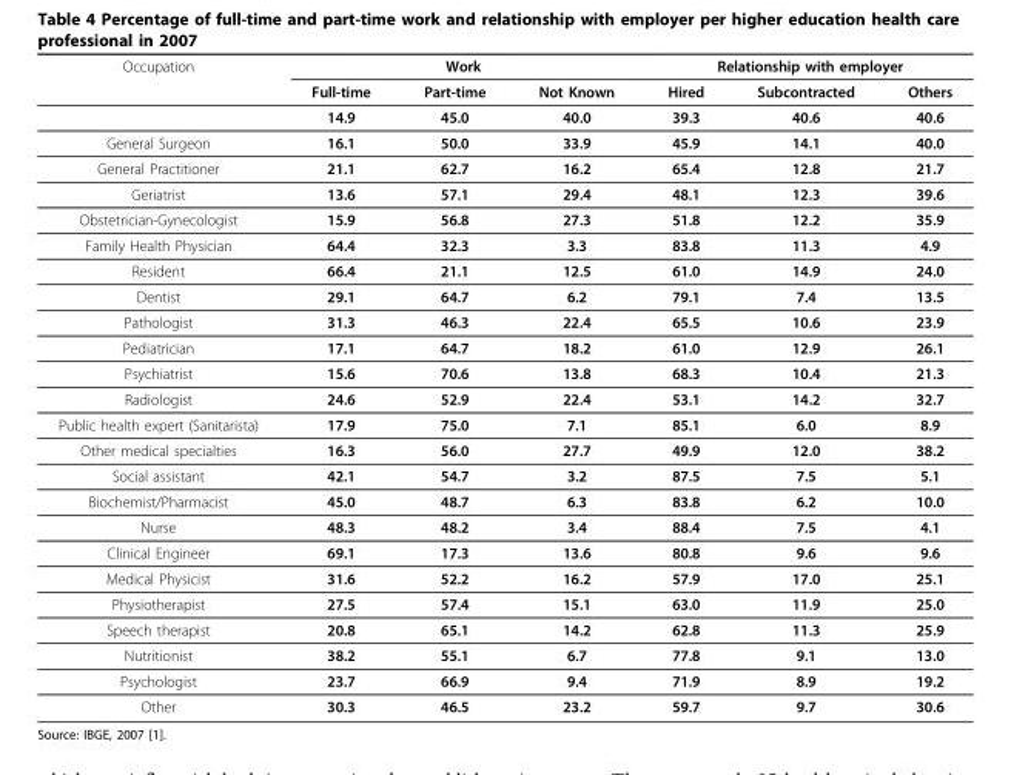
<table><thead><tr><td rowspan="2">Occupation</td><td colspan="3">Work</td><td colspan="3">Relationship with employer</td></tr><tr><td>Full-time</td><td>Part-time</td><td>Not Known</td><td>Hired</td><td>Subcontracted</td><td>Others</td></tr></thead><tbody><tr><td></td><td>14.9</td><td>45.0</td><td>40.0</td><td>39.3</td><td>40.6</td><td>40.6</td></tr><tr><td>General Surgeon</td><td>16.1</td><td>50.0</td><td>33.9</td><td>45.9</td><td>14.1</td><td>40.0</td></tr><tr><td>General Practitioner</td><td>21.1</td><td>62.7</td><td>16.2</td><td>65.4</td><td>12.8</td><td>21.7</td></tr><tr><td>Geriatrist</td><td>13.6</td><td>57.1</td><td>29.4</td><td>48.1</td><td>12.3</td><td>39.6</td></tr><tr><td>Obstetrician-Gynecologist</td><td>15.9</td><td>56.8</td><td>27.3</td><td>51.8</td><td>12.2</td><td>35.9</td></tr><tr><td>Family Health Physician</td><td>64.4</td><td>32.3</td><td>3.3</td><td>83.8</td><td>11.3</td><td>4.9</td></tr><tr><td>Resident</td><td>66.4</td><td>21.1</td><td>12.5</td><td>61.0</td><td>14.9</td><td>24.0</td></tr><tr><td>Dentist</td><td>29.1</td><td>64.7</td><td>6.2</td><td>79.1</td><td>7.4</td><td>13.5</td></tr><tr><td>Pathologist</td><td>31.3</td><td>46.3</td><td>22.4</td><td>65.5</td><td>10.6</td><td>23.9</td></tr><tr><td>Pediatrician</td><td>17.1</td><td>64.7</td><td>18.2</td><td>61.0</td><td>12.9</td><td>26.1</td></tr><tr><td>Psychiatrist</td><td>15.6</td><td>70.6</td><td>13.8</td><td>68.3</td><td>10.4</td><td>21.3</td></tr><tr><td>Radiologist</td><td>24.6</td><td>52.9</td><td>22.4</td><td>53.1</td><td>14.2</td><td>32.7</td></tr><tr><td>Public health expert (Sanitarista)</td><td>17.9</td><td>75.0</td><td>7.1</td><td>85.1</td><td>6.0</td><td>8.9</td></tr><tr><td>Other medical specialties</td><td>16.3</td><td>56.0</td><td>27.7</td><td>49.9</td><td>12.0</td><td>38.2</td></tr><tr><td>Social assistant</td><td>42.1</td><td>54.7</td><td>3.2</td><td>87.5</td><td>7.5</td><td>5.1</td></tr><tr><td>Biochemist/Pharmacist</td><td>45.0</td><td>48.7</td><td>6.3</td><td>83.8</td><td>6.2</td><td>10.0</td></tr><tr><td>Nurse</td><td>48.3</td><td>48.2</td><td>3.4</td><td>88.4</td><td>7.5</td><td>4.1</td></tr><tr><td>Clinical Engineer</td><td>69.1</td><td>17.3</td><td>13.6</td><td>80.8</td><td>9.6</td><td>9.6</td></tr><tr><td>Medical Physicist</td><td>31.6</td><td>52.2</td><td>16.2</td><td>57.9</td><td>17.0</td><td>25.1</td></tr><tr><td>Physiotherapist</td><td>27.5</td><td>57.4</td><td>15.1</td><td>63.0</td><td>11.9</td><td>25.0</td></tr><tr><td>Speech therapist</td><td>20.8</td><td>65.1</td><td>14.2</td><td>62.8</td><td>11.3</td><td>25.9</td></tr><tr><td>Nutritionist</td><td>38.2</td><td>55.1</td><td>6.7</td><td>77.8</td><td>9.1</td><td>13.0</td></tr><tr><td>Psychologist</td><td>23.7</td><td>66.9</td><td>9.4</td><td>71.9</td><td>8.9</td><td>19.2</td></tr><tr><td>Other</td><td>30.3</td><td>46.5</td><td>23.2</td><td>59.7</td><td>9.7</td><td>30.6</td></tr></tbody></table>